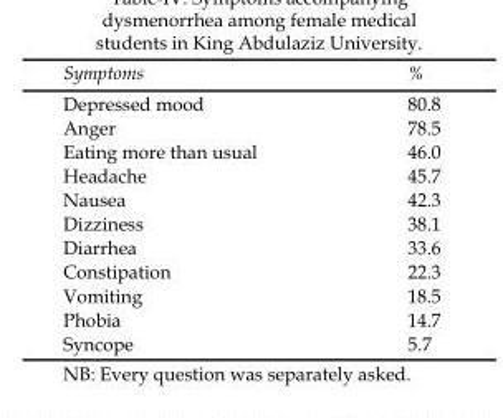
<table><thead><tr><td>Symptoms</td><td>%</td></tr></thead><tbody><tr><td>Depressed mood</td><td>80.8</td></tr><tr><td>Anger</td><td>78.5</td></tr><tr><td>Eating more than usual</td><td>46.0</td></tr><tr><td>Headache</td><td>45.7</td></tr><tr><td>Nausea</td><td>42.3</td></tr><tr><td>Dizziness</td><td>38.1</td></tr><tr><td>Diarrhea</td><td>33.6</td></tr><tr><td>Constipation</td><td>22.3</td></tr><tr><td>Vomiting</td><td>18.5</td></tr><tr><td>Phobia</td><td>14.7</td></tr><tr><td>Syncope</td><td>5.7</td></tr></tbody></table>